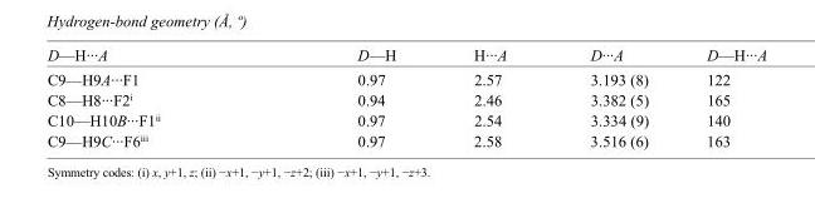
<table><tbody><tr><td>D—H···A</td><td>D—H</td><td>H···A</td><td>D···A</td><td>D—H···A</td></tr><tr><td>C9—H9A···F1</td><td>0.97</td><td>2.57</td><td>3.193 (8)</td><td>122</td></tr><tr><td>C8—H8···F2<sup>i</sup></td><td>0.94</td><td>2.46</td><td>3.382 (5)</td><td>165</td></tr><tr><td>C10—H10B···F1<sup>ii</sup></td><td>0.97</td><td>2.54</td><td>3.334 (9)</td><td>140</td></tr><tr><td>C9—H9C···F6<sup>iii</sup></td><td>0.97</td><td>2.58</td><td>3.516 (6)</td><td>163</td></tr></tbody></table>